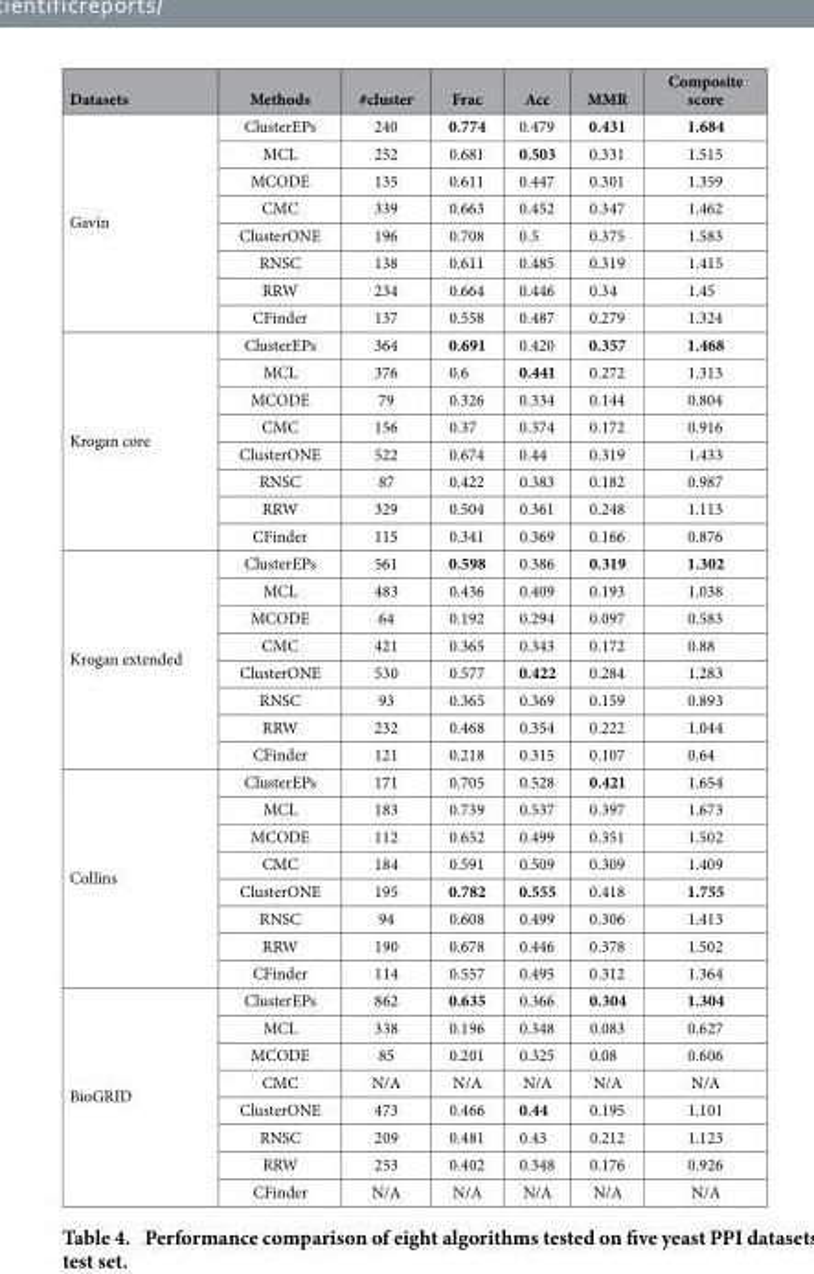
<table><thead><tr><td>Datasets</td><td>Methods</td><td>#cluster</td><td>Frac</td><td>Acc</td><td>MMR</td><td>Composite score</td></tr></thead><tbody><tr><td rowspan="8">Gavin</td><td>ClusterEPs</td><td>240</td><td>0.774</td><td>0.479</td><td>0.431</td><td>1.684</td></tr><tr><td>MCL</td><td>252</td><td>0.681</td><td>0.503</td><td>0.331</td><td>1.515</td></tr><tr><td>MCODE</td><td>135</td><td>0.611</td><td>0.447</td><td>0.301</td><td>1.359</td></tr><tr><td>CMC</td><td>339</td><td>0.663</td><td>0.452</td><td>0.347</td><td>1.462</td></tr><tr><td>ClusterONE</td><td>196</td><td>0.708</td><td>0.5</td><td>0.375</td><td>1.583</td></tr><tr><td>RNSC</td><td>138</td><td>0.611</td><td>0.485</td><td>0.319</td><td>1.415</td></tr><tr><td>RRW</td><td>234</td><td>0.664</td><td>0.446</td><td>0.34</td><td>1.45</td></tr><tr><td>CFinder</td><td>137</td><td>0.558</td><td>0.487</td><td>0.279</td><td>1.324</td></tr><tr><td rowspan="8">Krogan core</td><td>ClusterEPs</td><td>364</td><td>0.691</td><td>0.420</td><td>0.357</td><td>1.468</td></tr><tr><td>MCL</td><td>376</td><td>0.6</td><td>0.441</td><td>0.272</td><td>1.313</td></tr><tr><td>MCODE</td><td>79</td><td>0.326</td><td>0.334</td><td>0.144</td><td>0.804</td></tr><tr><td>CMC</td><td>156</td><td>0.37</td><td>0.374</td><td>0.172</td><td>0.916</td></tr><tr><td>ClusterONE</td><td>522</td><td>0.674</td><td>0.44</td><td>0.319</td><td>1.433</td></tr><tr><td>RNSC</td><td>87</td><td>0.422</td><td>0.383</td><td>0.182</td><td>0.987</td></tr><tr><td>RRW</td><td>329</td><td>0.504</td><td>0.361</td><td>0.248</td><td>1.113</td></tr><tr><td>CFinder</td><td>115</td><td>0.341</td><td>0.369</td><td>0.166</td><td>0.876</td></tr><tr><td rowspan="8">Krogan extended</td><td>ClusterEPs</td><td>561</td><td>0.598</td><td>0.386</td><td>0.319</td><td>1.302</td></tr><tr><td>MCL</td><td>483</td><td>0.436</td><td>0.409</td><td>0.193</td><td>1.038</td></tr><tr><td>MCODE</td><td>64</td><td>0.192</td><td>0.294</td><td>0.097</td><td>0.583</td></tr><tr><td>CMC</td><td>421</td><td>0.365</td><td>0.343</td><td>0.172</td><td>0.88</td></tr><tr><td>ClusterONE</td><td>530</td><td>0.577</td><td>0.422</td><td>0.284</td><td>1.283</td></tr><tr><td>RNSC</td><td>93</td><td>0.365</td><td>0.369</td><td>0.159</td><td>0.893</td></tr><tr><td>RRW</td><td>232</td><td>0.468</td><td>0.354</td><td>0.222</td><td>1.044</td></tr><tr><td>CFinder</td><td>121</td><td>0.218</td><td>0.315</td><td>0.107</td><td>0.64</td></tr><tr><td rowspan="8">Collins</td><td>ClusterEPs</td><td>171</td><td>0.705</td><td>0.528</td><td>0.421</td><td>1.654</td></tr><tr><td>MCL</td><td>183</td><td>0.739</td><td>0.537</td><td>0.397</td><td>1.673</td></tr><tr><td>MCODE</td><td>112</td><td>0.652</td><td>0.499</td><td>0.351</td><td>1.502</td></tr><tr><td>CMC</td><td>184</td><td>0.591</td><td>0.509</td><td>0.309</td><td>1.409</td></tr><tr><td>ClusterONE</td><td>195</td><td>0.782</td><td>0.555</td><td>0.418</td><td>1.755</td></tr><tr><td>RNSC</td><td>94</td><td>0.608</td><td>0.499</td><td>0.306</td><td>1.413</td></tr><tr><td>RRW</td><td>190</td><td>0.678</td><td>0.446</td><td>0.378</td><td>1.502</td></tr><tr><td>CFinder</td><td>114</td><td>0.557</td><td>0.495</td><td>0.312</td><td>1.364</td></tr><tr><td rowspan="8">BioGRID</td><td>ClusterEPs</td><td>862</td><td>0.635</td><td>0.366</td><td>0.304</td><td>1.304</td></tr><tr><td>MCL</td><td>338</td><td>0.196</td><td>0.348</td><td>0.083</td><td>0.627</td></tr><tr><td>MCODE</td><td>85</td><td>0.201</td><td>0.325</td><td>0.08</td><td>0.606</td></tr><tr><td>CMC</td><td>N/A</td><td>N/A</td><td>N/A</td><td>N/A</td><td>N/A</td></tr><tr><td>ClusterONE</td><td>473</td><td>0.466</td><td>0.44</td><td>0.195</td><td>1.101</td></tr><tr><td>RNSC</td><td>209</td><td>0.481</td><td>0.43</td><td>0.212</td><td>1.123</td></tr><tr><td>RRW</td><td>253</td><td>0.402</td><td>0.348</td><td>0.176</td><td>0.926</td></tr><tr><td>CFinder</td><td>N/A</td><td>N/A</td><td>N/A</td><td>N/A</td><td>N/A</td></tr></tbody></table>